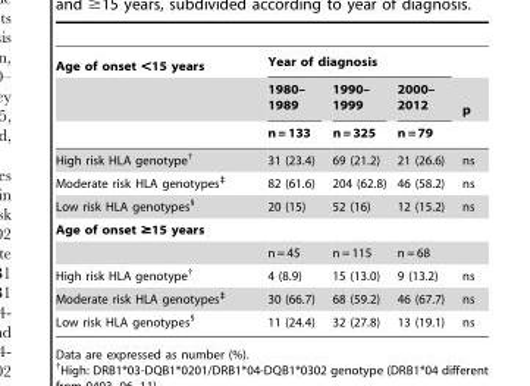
<table><thead><tr><td rowspan="3">Age of onset &lt;15 years</td><td colspan="3">Year of diagnosis</td><td rowspan="3">p</td></tr><tr><td rowspan="2">1980– 1989 n = 133</td><td rowspan="2">1990– 1999 n = 325</td><td rowspan="2">2000– 2012 n = 79</td></tr><tr></tr></thead><tbody><tr><td>High risk HLA genotype†</td><td>31 (23.4)</td><td>69 (21.2)</td><td>21 (26.6)</td><td>ns</td></tr><tr><td>Moderate risk HLA genotypes‡</td><td>82 (61.6)</td><td>204 (62.8)</td><td>46 (58.2)</td><td>ns</td></tr><tr><td>Low risk HLA genotypes§</td><td>20 (15)</td><td>52 (16)</td><td>12 (15.2)</td><td>ns</td></tr><tr><td colspan="5">Age of onset ≥15 years</td></tr><tr><td></td><td>n = 45</td><td>n = 115</td><td>n = 68</td><td></td></tr><tr><td>High risk HLA genotype†</td><td>4 (8.9)</td><td>15 (13.0)</td><td>9 (13.2)</td><td>ns</td></tr><tr><td>Moderate risk HLA genotypes‡</td><td>30 (66.7)</td><td>68 (59.2)</td><td>46 (67.7)</td><td>ns</td></tr><tr><td>Low risk HLA genotypes§</td><td>11 (24.4)</td><td>32 (27.8)</td><td>13 (19.1)</td><td>ns</td></tr></tbody></table>